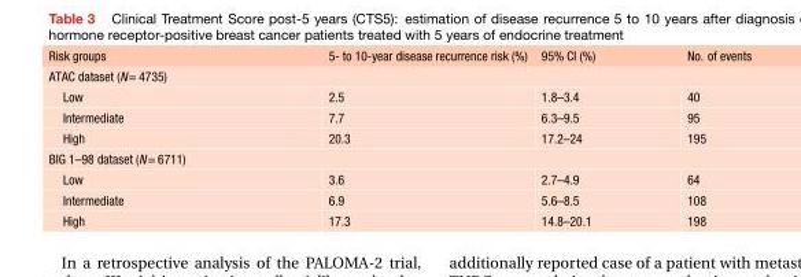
<table><thead><tr><td>Risk groups</td><td>5- to 10-year disease recurrence risk (%)</td><td>95% CI (%)</td><td>No. of events</td></tr></thead><tbody><tr><td colspan="4">ATAC dataset (N= 4735)</td></tr><tr><td>Low</td><td>2.5</td><td>1.8–3.4</td><td>40</td></tr><tr><td>Intermediate</td><td>7.7</td><td>6.3–9.5</td><td>95</td></tr><tr><td>High</td><td>20.3</td><td>17.2–24</td><td>195</td></tr><tr><td colspan="4">BIG 1–98 dataset (N= 6711)</td></tr><tr><td>Low</td><td>3.6</td><td>2.7–4.9</td><td>64</td></tr><tr><td>Intermediate</td><td>6.9</td><td>5.6–8.5</td><td>108</td></tr><tr><td>High</td><td>17.3</td><td>14.8–20.1</td><td>198</td></tr></tbody></table>